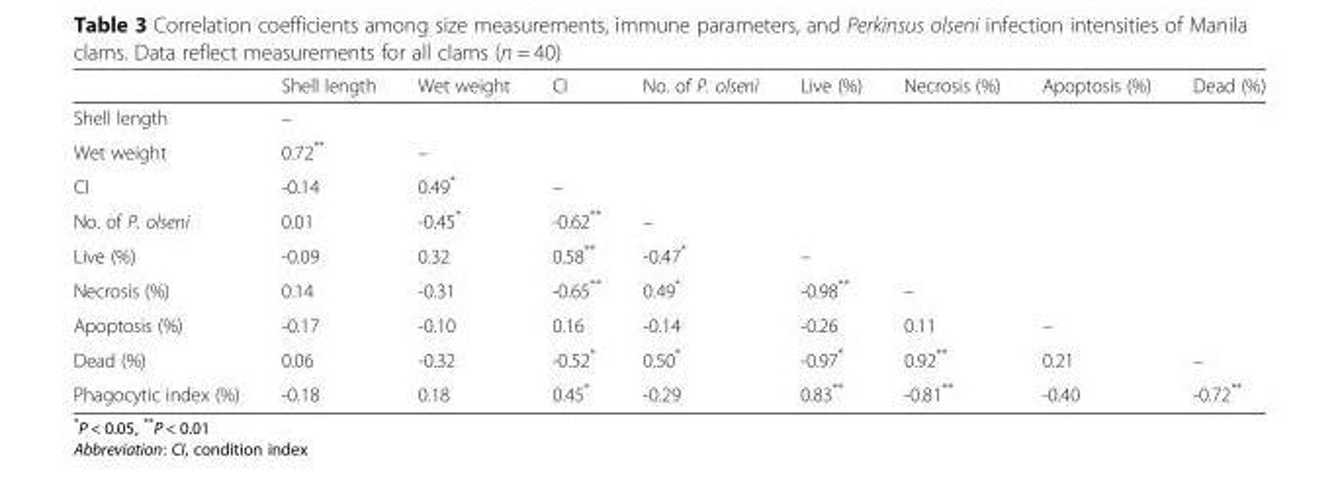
<table><thead><tr><td></td><td>Shell length</td><td>Wet weight</td><td>CI</td><td>No. of P. olseni</td><td>Live (%)</td><td>Necrosis (%)</td><td>Apoptosis (%)</td><td>Dead (%)</td></tr></thead><tbody><tr><td>Shell length</td><td>–</td><td></td><td></td><td></td><td></td><td></td><td></td><td></td></tr><tr><td>Wet weight</td><td>0.72**</td><td>–</td><td></td><td></td><td></td><td></td><td></td><td></td></tr><tr><td>CI</td><td>-0.14</td><td>0.49*</td><td>–</td><td></td><td></td><td></td><td></td><td></td></tr><tr><td>No. of P. olseni</td><td>0.01</td><td>-0.45*</td><td>-0.62**</td><td>–</td><td></td><td></td><td></td><td></td></tr><tr><td>Live (%)</td><td>-0.09</td><td>0.32</td><td>0.58**</td><td>-0.47*</td><td>–</td><td></td><td></td><td></td></tr><tr><td>Necrosis (%)</td><td>0.14</td><td>-0.31</td><td>-0.65**</td><td>0.49*</td><td>-0.98**</td><td>–</td><td></td><td></td></tr><tr><td>Apoptosis (%)</td><td>-0.17</td><td>-0.10</td><td>0.16</td><td>-0.14</td><td>-0.26</td><td>0.11</td><td>–</td><td></td></tr><tr><td>Dead (%)</td><td>0.06</td><td>-0.32</td><td>-0.52*</td><td>0.50*</td><td>-0.97*</td><td>0.92**</td><td>0.21</td><td>–</td></tr><tr><td>Phagocytic index (%)</td><td>-0.18</td><td>0.18</td><td>0.45*</td><td>-0.29</td><td>0.83**</td><td>-0.81**</td><td>-0.40</td><td>-0.72**</td></tr></tbody></table>